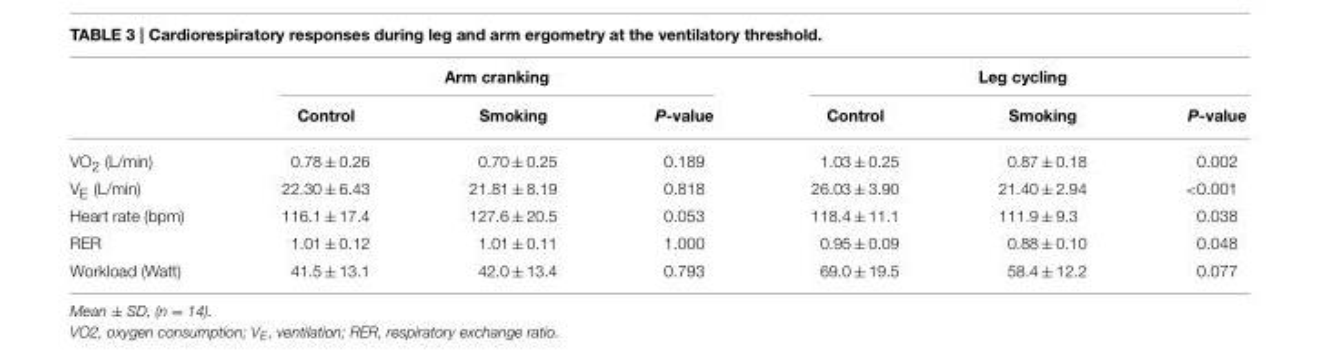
<table><thead><tr><td rowspan="2"></td><td colspan="3">Arm cranking</td><td colspan="3">Leg cycling</td></tr><tr><td>Control</td><td>Smoking</td><td>P-value</td><td>Control</td><td>Smoking</td><td>P-value</td></tr></thead><tbody><tr><td>VO<sub>2</sub> (L/min)</td><td>0.78 ± 0.26</td><td>0.70 ± 0.25</td><td>0.189</td><td>1.03 ± 0.25</td><td>0.87 ± 0.18</td><td>0.002</td></tr><tr><td>V<sub>E</sub> (L/min)</td><td>22.30 ± 6.43</td><td>21.81 ± 8.19</td><td>0.818</td><td>26.03 ± 3.90</td><td>21.40 ± 2.94</td><td>&lt;0.001</td></tr><tr><td>Heart rate (bpm)</td><td>116.1 ± 17.4</td><td>127.6 ± 20.5</td><td>0.053</td><td>118.4 ± 11.1</td><td>111.9 ± 9.3</td><td>0.038</td></tr><tr><td>RER</td><td>1.01 ± 0.12</td><td>1.01 ± 0.11</td><td>1.000</td><td>0.95 ± 0.09</td><td>0.88 ± 0.10</td><td>0.048</td></tr><tr><td>Workload (Watt)</td><td>41.5 ± 13.1</td><td>42.0 ± 13.4</td><td>0.793</td><td>69.0 ± 19.5</td><td>58.4 ± 12.2</td><td>0.077</td></tr></tbody></table>